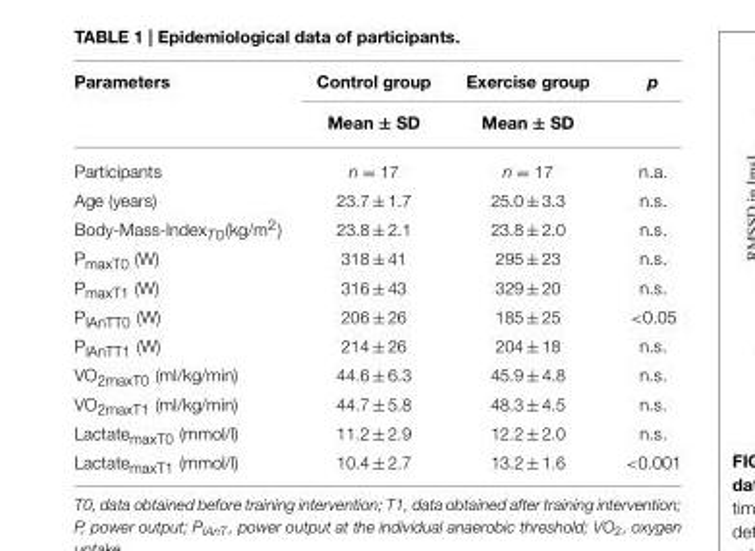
<table><thead><tr><td rowspan="2">Parameters</td><td rowspan="2">Control group Mean ± SD</td><td rowspan="2">Exercise group Mean ± SD</td><td rowspan="2">p</td></tr><tr></tr></thead><tbody><tr><td>Participants</td><td>n = 17</td><td>n = 17</td><td>n.a.</td></tr><tr><td>Age (years)</td><td>23.7 ± 1.7</td><td>25.0 ± 3.3</td><td>n.s.</td></tr><tr><td>Body-Mass-Index<sub>T0</sub>(kg/m<sup>2</sup>)</td><td>23.8 ± 2.1</td><td>23.8 ± 2.0</td><td>n.s.</td></tr><tr><td>P<sub>maxT0</sub> (W)</td><td>318 ± 41</td><td>295 ± 23</td><td>n.s.</td></tr><tr><td>P<sub>maxT1</sub> (W)</td><td>316 ± 43</td><td>329 ± 20</td><td>n.s.</td></tr><tr><td>P<sub>IAnTT0</sub> (W)</td><td>206 ± 26</td><td>185 ± 25</td><td>&lt;0.05</td></tr><tr><td>P<sub>IAnTT1</sub> (W)</td><td>214 ± 26</td><td>204 ± 18</td><td>n.s.</td></tr><tr><td>VO<sub>2maxT0</sub> (ml/kg/min)</td><td>44.6 ± 6.3</td><td>45.9 ± 4.8</td><td>n.s.</td></tr><tr><td>VO<sub>2maxT1</sub> (ml/kg/min)</td><td>44.7 ± 5.8</td><td>48.3 ± 4.5</td><td>n.s.</td></tr><tr><td>Lactate<sub>maxT0</sub> (mmol/l)</td><td>11.2 ± 2.9</td><td>12.2 ± 2.0</td><td>n.s.</td></tr><tr><td>Lactate<sub>maxT1</sub> (mmol/l)</td><td>10.4 ± 2.7</td><td>13.2 ± 1.6</td><td>&lt;0.001</td></tr></tbody></table>